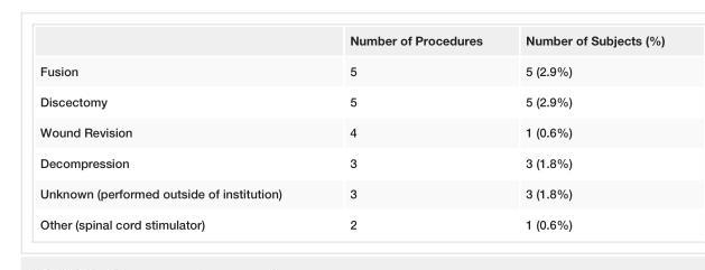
<table><thead><tr><td></td><td>Number of Procedures</td><td>Number of Subjects (%)</td></tr></thead><tbody><tr><td>Fusion</td><td>5</td><td>5 (2.9%)</td></tr><tr><td>Discectomy</td><td>5</td><td>5 (2.9%)</td></tr><tr><td>Wound Revision</td><td>4</td><td>1 (0.6%)</td></tr><tr><td>Decompression</td><td>3</td><td>3 (1.8%)</td></tr><tr><td>Unknown (performed outside of institution)</td><td>3</td><td>3 (1.8%)</td></tr><tr><td>Other (spinal cord stimulator)</td><td>2</td><td>1 (0.6%)</td></tr></tbody></table>